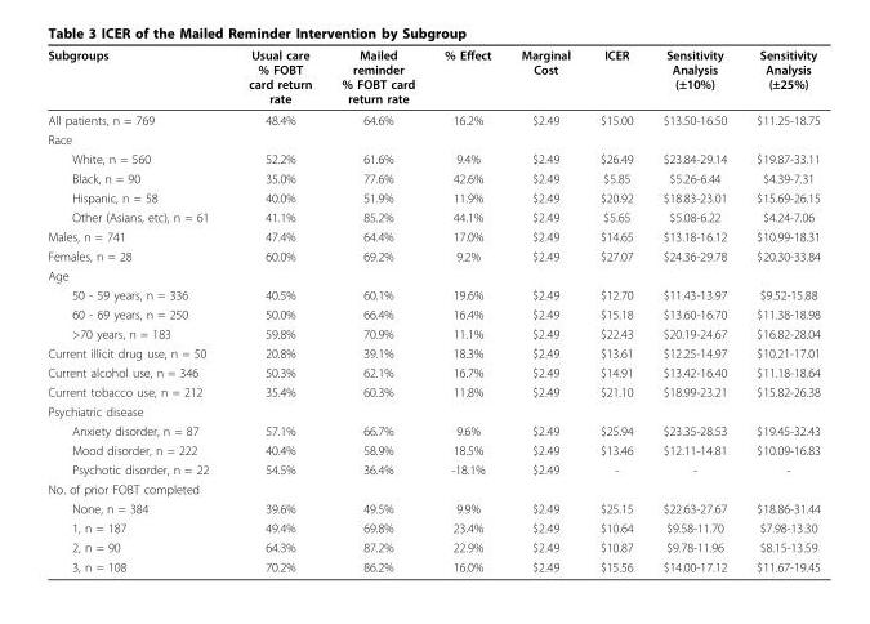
<table><thead><tr><td>Subgroups</td><td>Usual care % FOBT card return rate</td><td>Mailed reminder % FOBT card return rate</td><td>% Effect</td><td>Marginal Cost</td><td>ICER</td><td>Sensitivity Analysis (±10%)</td><td>Sensitivity Analysis (±25%)</td></tr></thead><tbody><tr><td>All patients, n = 769</td><td>48.4%</td><td>64.6%</td><td>16.2%</td><td>$2.49</td><td>$15.00</td><td>$13.50-16.50</td><td>$11.25-18.75</td></tr><tr><td colspan="8">Race</td></tr><tr><td>White, n = 560</td><td>52.2%</td><td>61.6%</td><td>9.4%</td><td>$2.49</td><td>$26.49</td><td>$23.84-29.14</td><td>$19.87-33.11</td></tr><tr><td>Black, n = 90</td><td>35.0%</td><td>77.6%</td><td>42.6%</td><td>$2.49</td><td>$5.85</td><td>$5.26-6.44</td><td>$4.39-7.31</td></tr><tr><td>Hispanic, n = 58</td><td>40.0%</td><td>51.9%</td><td>11.9%</td><td>$2.49</td><td>$20.92</td><td>$18.83-23.01</td><td>$15.69-26.15</td></tr><tr><td>Other (Asians, etc), n = 61</td><td>41.1%</td><td>85.2%</td><td>44.1%</td><td>$2.49</td><td>$5.65</td><td>$5.08-6.22</td><td>$4.24-7.06</td></tr><tr><td>Males, n = 741</td><td>47.4%</td><td>64.4%</td><td>17.0%</td><td>$2.49</td><td>$14.65</td><td>$13.18-16.12</td><td>$10.99-18.31</td></tr><tr><td>Females, n = 28</td><td>60.0%</td><td>69.2%</td><td>9.2%</td><td>$2.49</td><td>$27.07</td><td>$24.36-29.78</td><td>$20.30-33.84</td></tr><tr><td colspan="8">Age</td></tr><tr><td>50 - 59 years, n = 336</td><td>40.5%</td><td>60.1%</td><td>19.6%</td><td>$2.49</td><td>$12.70</td><td>$11.43-13.97</td><td>$9.52-15.88</td></tr><tr><td>60 - 69 years, n = 250</td><td>50.0%</td><td>66.4%</td><td>16.4%</td><td>$2.49</td><td>$15.18</td><td>$13.60-16.70</td><td>$11.38-18.98</td></tr><tr><td>&gt;70 years, n = 183</td><td>59.8%</td><td>70.9%</td><td>11.1%</td><td>$2.49</td><td>$22.43</td><td>$20.19-24.67</td><td>$16.82-28.04</td></tr><tr><td>Current illicit drug use, n = 50</td><td>20.8%</td><td>39.1%</td><td>18.3%</td><td>$2.49</td><td>$13.61</td><td>$12.25-14.97</td><td>$10.21-17.01</td></tr><tr><td>Current alcohol use, n = 346</td><td>50.3%</td><td>62.1%</td><td>16.7%</td><td>$2.49</td><td>$14.91</td><td>$13.42-16.40</td><td>$11.18-18.64</td></tr><tr><td>Current tobacco use, n = 212</td><td>35.4%</td><td>60.3%</td><td>11.8%</td><td>$2.49</td><td>$21.10</td><td>$18.99-23.21</td><td>$15.82-26.38</td></tr><tr><td colspan="8">Psychiatric disease</td></tr><tr><td>Anxiety disorder, n = 87</td><td>57.1%</td><td>66.7%</td><td>9.6%</td><td>$2.49</td><td>$25.94</td><td>$23.35-28.53</td><td>$19.45-32.43</td></tr><tr><td>Mood disorder, n = 222</td><td>40.4%</td><td>58.9%</td><td>18.5%</td><td>$2.49</td><td>$13.46</td><td>$12.11-14.81</td><td>$10.09-16.83</td></tr><tr><td>Psychotic disorder, n = 22</td><td>54.5%</td><td>36.4%</td><td>-18.1%</td><td>$2.49</td><td>-</td><td>-</td><td>-</td></tr><tr><td colspan="8">No. of prior FOBT completed</td></tr><tr><td>None, n = 384</td><td>39.6%</td><td>49.5%</td><td>9.9%</td><td>$2.49</td><td>$25.15</td><td>$22.63-27.67</td><td>$18.86-31.44</td></tr><tr><td>1, n = 187</td><td>49.4%</td><td>69.8%</td><td>23.4%</td><td>$2.49</td><td>$10.64</td><td>$9.58-11.70</td><td>$7.98-13.30</td></tr><tr><td>2, n = 90</td><td>64.3%</td><td>87.2%</td><td>22.9%</td><td>$2.49</td><td>$10.87</td><td>$9.78-11.96</td><td>$8.15-13.59</td></tr><tr><td>3, n = 108</td><td>70.2%</td><td>86.2%</td><td>16.0%</td><td>$2.49</td><td>$15.56</td><td>$14.00-17.12</td><td>$11.67-19.45</td></tr></tbody></table>